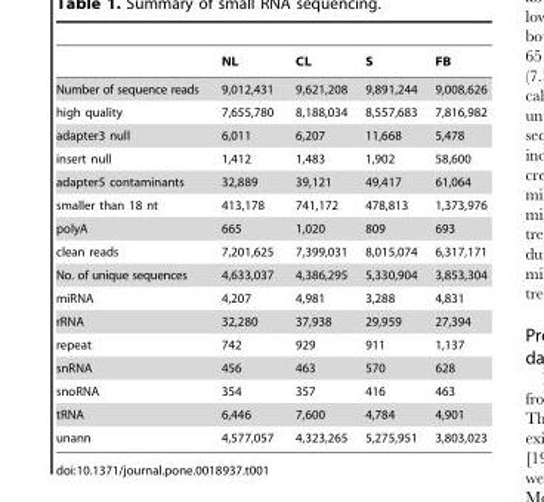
<table><thead><tr><td></td><td>NL</td><td>CL</td><td>S</td><td>FB</td></tr></thead><tbody><tr><td>Number of sequence reads</td><td>9,012,431</td><td>9,621,208</td><td>9,891,244</td><td>9,008,626</td></tr><tr><td>high quality</td><td>7,655,780</td><td>8,188,034</td><td>8,557,683</td><td>7,816,982</td></tr><tr><td>adapter3 null</td><td>6,011</td><td>6,207</td><td>11,668</td><td>5,478</td></tr><tr><td>insert null</td><td>1,412</td><td>1,483</td><td>1,902</td><td>58,600</td></tr><tr><td>adapter5 contaminants</td><td>32,889</td><td>39,121</td><td>49,417</td><td>61,064</td></tr><tr><td>smaller than 18 nt</td><td>413,178</td><td>741,172</td><td>478,813</td><td>1,373,976</td></tr><tr><td>polyA</td><td>665</td><td>1,020</td><td>809</td><td>693</td></tr><tr><td>clean reads</td><td>7,201,625</td><td>7,399,031</td><td>8,015,074</td><td>6,317,171</td></tr><tr><td>No. of unique sequences</td><td>4,633,037</td><td>4,386,295</td><td>5,330,904</td><td>3,853,304</td></tr><tr><td>miRNA</td><td>4,207</td><td>4,981</td><td>3,288</td><td>4,831</td></tr><tr><td>rRNA</td><td>32,280</td><td>37,938</td><td>29,959</td><td>27,394</td></tr><tr><td>repeat</td><td>742</td><td>929</td><td>911</td><td>1,137</td></tr><tr><td>snRNA</td><td>456</td><td>463</td><td>570</td><td>628</td></tr><tr><td>snoRNA</td><td>354</td><td>357</td><td>416</td><td>463</td></tr><tr><td>tRNA</td><td>6,446</td><td>7,600</td><td>4,784</td><td>4,901</td></tr><tr><td>unann</td><td>4,577,057</td><td>4,323,265</td><td>5,275,951</td><td>3,803,023</td></tr></tbody></table>